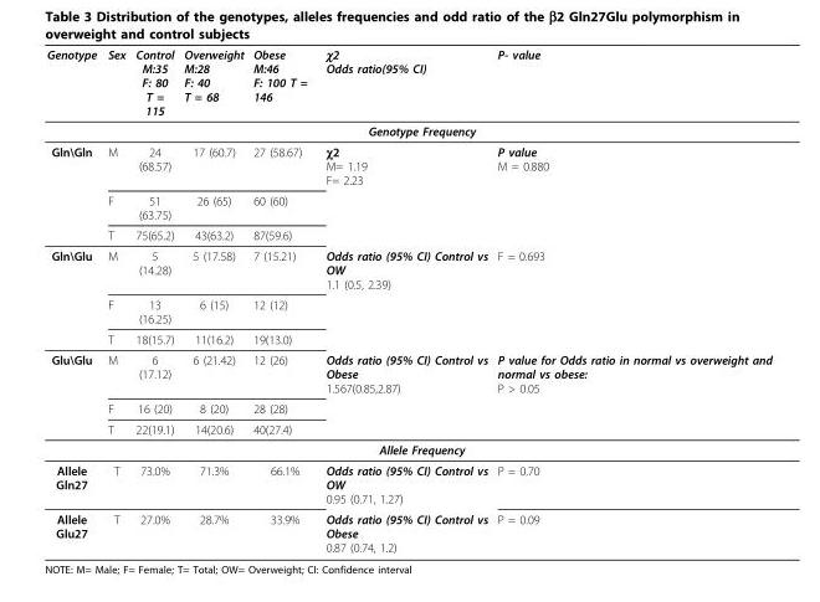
<table><thead><tr><td>Genotype</td><td>Sex</td><td>Control M:35 F: 80 T = 115</td><td>Overweight M:28 F: 40 T = 68</td><td>Obese M:46 F: 100 T = 146</td><td>χ2 Odds ratio(95% CI)</td><td>P- value</td></tr></thead><tbody><tr><td colspan="7">Genotype Frequency</td></tr><tr><td rowspan="3">Gln\Gln</td><td>M</td><td>24 (68.57)</td><td>17 (60.7)</td><td>27 (58.67)</td><td>χ2 M= 1.19 F= 2.23</td><td>P value M = 0.880</td></tr><tr><td>F</td><td>51 (63.75)</td><td>26 (65)</td><td>60 (60)</td><td></td><td></td></tr><tr><td>T</td><td>75(65.2)</td><td>43(63.2)</td><td>87(59.6)</td><td></td><td></td></tr><tr><td rowspan="3">Gln\Glu</td><td>M</td><td>5 (14.28)</td><td>5 (17.58)</td><td>7 (15.21)</td><td>Odds ratio (95% CI) Control vs OW 1.1 (0.5, 2.39)</td><td>F = 0.693</td></tr><tr><td>F</td><td>13 (16.25)</td><td>6 (15)</td><td>12 (12)</td><td></td><td></td></tr><tr><td>T</td><td>18(15.7)</td><td>11(16.2)</td><td>19(13.0)</td><td></td><td></td></tr><tr><td rowspan="3">Glu\Glu</td><td>M</td><td>6 (17.12)</td><td>6 (21.42)</td><td>12 (26)</td><td>Odds ratio (95% CI) Control vs Obese 1.567(0.85,2.87)</td><td>P value for Odds ratio in normal vs overweight and normal vs obese: P &gt; 0.05</td></tr><tr><td>F</td><td>16 (20)</td><td>8 (20)</td><td>28 (28)</td><td></td><td></td></tr><tr><td>T</td><td>22(19.1)</td><td>14(20.6)</td><td>40(27.4)</td><td></td><td></td></tr><tr><td colspan="7">Allele Frequency</td></tr><tr><td>Allele Gln27</td><td>T</td><td>73.0%</td><td>71.3%</td><td>66.1%</td><td>Odds ratio (95% CI) Control vs OW 0.95 (0.71, 1.27)</td><td>P = 0.70</td></tr><tr><td>Allele Glu27</td><td>T</td><td>27.0%</td><td>28.7%</td><td>33.9%</td><td>Odds ratio (95% CI) Control vs Obese 0.87 (0.74, 1.2)</td><td>P = 0.09</td></tr></tbody></table>